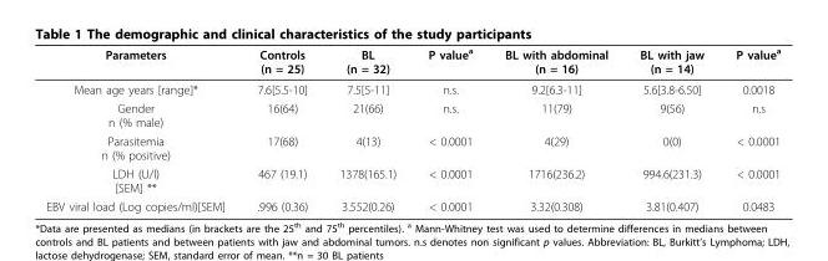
<table><thead><tr><td>Parameters</td><td>Controls (n = 25)</td><td>BL (n = 32)</td><td>P value<sup>a</sup></td><td>BL with abdominal (n = 16)</td><td>BL with jaw (n = 14)</td><td>P value<sup>a</sup></td></tr></thead><tbody><tr><td>Mean age years [range]*</td><td>7.6[5.5-10]</td><td>7.5[5-11]</td><td>n.s.</td><td>9.2[6.3-11]</td><td>5.6[3.8-6.50]</td><td>0.0018</td></tr><tr><td>Gender n (% male)</td><td>16(64)</td><td>21(66)</td><td>n.s.</td><td>11(79)</td><td>9(56)</td><td>n.s</td></tr><tr><td>Parasitemia n (% positive)</td><td>17(68)</td><td>4(13)</td><td>&lt; 0.0001</td><td>4(29)</td><td>0(0)</td><td>&lt; 0.0001</td></tr><tr><td>LDH (U/l) [SEM] **</td><td>467 (19.1)</td><td>1378(165.1)</td><td>&lt; 0.0001</td><td>1716(236.2)</td><td>994.6(231.3)</td><td>&lt; 0.0001</td></tr><tr><td>EBV viral load (Log copies/ml)[SEM]</td><td>.996 (0.36)</td><td>3.552(0.26)</td><td>&lt; 0.0001</td><td>3.32(0.308)</td><td>3.81(0.407)</td><td>0.0483</td></tr></tbody></table>